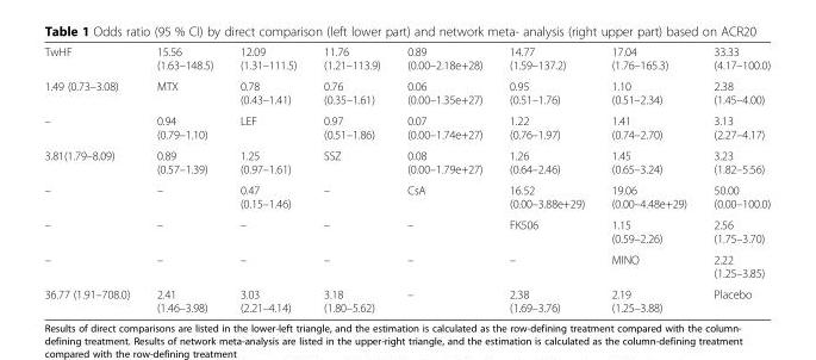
<table><tbody><tr><td>TwHF</td><td>15.56 (1.63–148.5)</td><td>12.09 (1.31–111.5)</td><td>11.76 (1.21–113.9)</td><td>0.89 (0.00–2.18e+28)</td><td>14.77 (1.59–137.2)</td><td>17.04 (1.76–165.3)</td><td>33.33 (4.17–100.0)</td></tr><tr><td>1.49 (0.73–3.08)</td><td>MTX</td><td>0.78 (0.43–1.41)</td><td>0.76 (0.35–1.61)</td><td>0.06 (0.00–1.35e+27)</td><td>0.95 (0.51–1.76)</td><td>1.10 (0.51–2.34)</td><td>2.38 (1.45–4.00)</td></tr><tr><td>–</td><td>0.94 (0.79–1.10)</td><td>LEF</td><td>0.97 (0.51–1.86)</td><td>0.07 (0.00–1.74e+27)</td><td>1.22 (0.76–1.97)</td><td>1.41 (0.74–2.70)</td><td>3.13 (2.27–4.17)</td></tr><tr><td>3.81(1.79–8.09)</td><td>0.89 (0.57–1.39)</td><td>1.25 (0.97–1.61)</td><td>SSZ</td><td>0.08 (0.00–1.79e+27)</td><td>1.26 (0.64–2.46)</td><td>1.45 (0.65–3.24)</td><td>3.23 (1.82–5.56)</td></tr><tr><td>–</td><td>–</td><td>0.47 (0.15–1.46)</td><td>–</td><td>CsA</td><td>16.52 (0.00–3.88e+29)</td><td>19.06 (0.00–4.48e+29)</td><td>50.00 (0.00–100.0)</td></tr><tr><td>–</td><td>–</td><td>–</td><td>–</td><td>–</td><td>FK506</td><td>1.15 (0.59–2.26)</td><td>2.56 (1.75–3.70)</td></tr><tr><td>–</td><td>–</td><td>–</td><td>–</td><td>–</td><td>–</td><td>MINO</td><td>2.22 (1.25–3.85)</td></tr><tr><td>36.77 (1.91–708.0)</td><td>2.41 (1.46–3.98)</td><td>3.03 (2.21–4.14)</td><td>3.18 (1.80–5.62)</td><td>–</td><td>2.38 (1.69–3.76)</td><td>2.19 (1.25–3.88)</td><td>Placebo</td></tr></tbody></table>